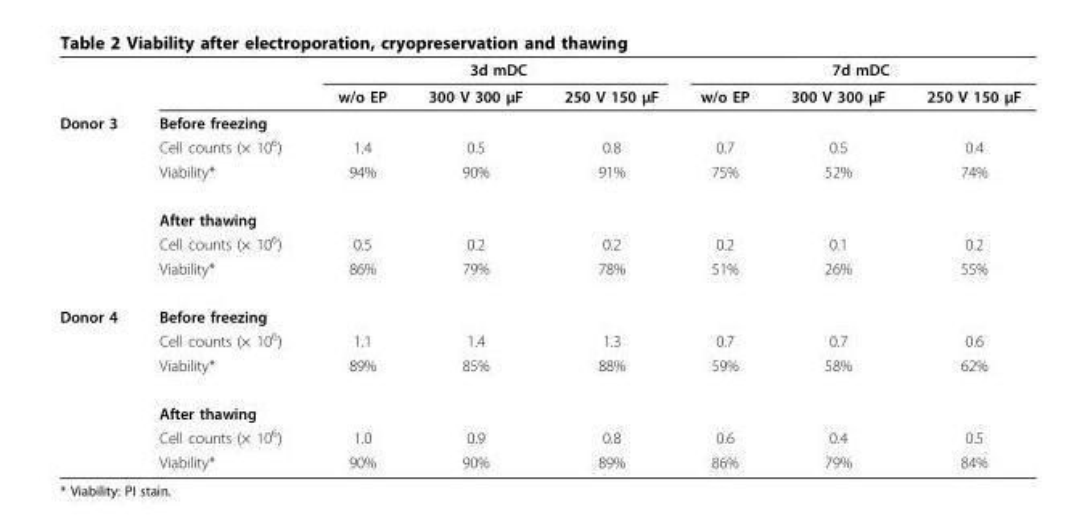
<table><thead><tr><td rowspan="2"></td><td rowspan="2"></td><td colspan="3">3d mDC</td><td colspan="3">7d mDC</td></tr><tr><td>w/o EP</td><td>300 V 300 μF</td><td>250 V 150 μF</td><td>w/o EP</td><td>300 V 300 μF</td><td>250 V 150 μF</td></tr></thead><tbody><tr><td rowspan="6">Donor 3</td><td>Before freezing</td><td></td><td></td><td></td><td></td><td></td><td></td></tr><tr><td>Cell counts (× 10<sup>6</sup>)</td><td>1.4</td><td>0.5</td><td>0.8</td><td>0.7</td><td>0.5</td><td>0.4</td></tr><tr><td>Viability*</td><td>94%</td><td>90%</td><td>91%</td><td>75%</td><td>52%</td><td>74%</td></tr><tr><td>After thawing</td><td></td><td></td><td></td><td></td><td></td><td></td></tr><tr><td>Cell counts (× 10<sup>6</sup>)</td><td>0.5</td><td>0.2</td><td>0.2</td><td>0.2</td><td>0.1</td><td>0.2</td></tr><tr><td>Viability*</td><td>86%</td><td>79%</td><td>78%</td><td>51%</td><td>26%</td><td>55%</td></tr><tr><td rowspan="6">Donor 4</td><td>Before freezing</td><td></td><td></td><td></td><td></td><td></td><td></td></tr><tr><td>Cell counts (× 10<sup>6</sup>)</td><td>1.1</td><td>1.4</td><td>1.3</td><td>0.7</td><td>0.7</td><td>0.6</td></tr><tr><td>Viability*</td><td>89%</td><td>85%</td><td>88%</td><td>59%</td><td>58%</td><td>62%</td></tr><tr><td>After thawing</td><td></td><td></td><td></td><td></td><td></td><td></td></tr><tr><td>Cell counts (× 10<sup>6</sup>)</td><td>1.0</td><td>0.9</td><td>0.8</td><td>0.6</td><td>0.4</td><td>0.5</td></tr><tr><td>Viability*</td><td>90%</td><td>90%</td><td>89%</td><td>86%</td><td>79%</td><td>84%</td></tr></tbody></table>